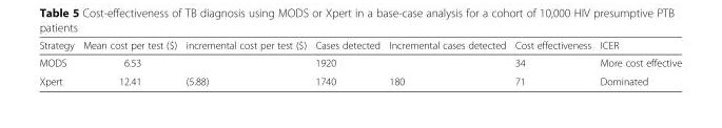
<table><thead><tr><td>Strategy</td><td>Mean cost per test ($)</td><td>incremental cost per test ($)</td><td>Cases detected</td><td>Incremental cases detected</td><td>Cost effectiveness</td><td>ICER</td></tr></thead><tbody><tr><td>MODS</td><td>6.53</td><td></td><td>1920</td><td></td><td>34</td><td>More cost effective</td></tr><tr><td>Xpert</td><td>12.41</td><td>(5.88)</td><td>1740</td><td>180</td><td>71</td><td>Dominated</td></tr></tbody></table>